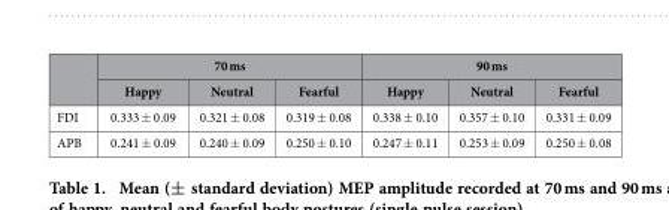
<table><thead><tr><td rowspan="2"></td><td colspan="3">70 ms</td><td colspan="3">90 ms</td></tr><tr><td>Happy</td><td>Neutral</td><td>Fearful</td><td>Happy</td><td>Neutral</td><td>Fearful</td></tr></thead><tbody><tr><td>FDI</td><td>0.333 ± 0.09</td><td>0.321 ± 0.08</td><td>0.319 ± 0.08</td><td>0.338 ± 0.10</td><td>0.357 ± 0.10</td><td>0.331 ± 0.09</td></tr><tr><td>APB</td><td>0.241 ± 0.09</td><td>0.240 ± 0.09</td><td>0.250 ± 0.10</td><td>0.247 ± 0.11</td><td>0.253 ± 0.09</td><td>0.250 ± 0.08</td></tr></tbody></table>